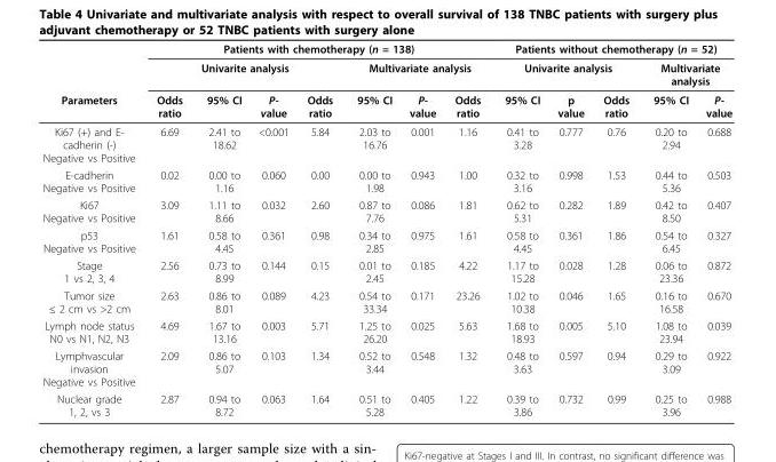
<table><thead><tr><td rowspan="3">Parameters</td><td colspan="7">Patients with chemotherapy (n = 138)</td><td colspan="5">Patients without chemotherapy (n = 52)</td></tr><tr><td colspan="4">Univarite analysis</td><td colspan="3">Multivariate analysis</td><td colspan="3">Univarite analysis</td><td colspan="2">Multivariate analysis</td></tr><tr><td>Odds ratio</td><td>95% CI</td><td>P- value</td><td>Odds ratio</td><td>95% CI</td><td>P- value</td><td>Odds ratio</td><td>95% CI</td><td>p value</td><td>Odds ratio</td><td>95% CI</td><td>P- value</td></tr></thead><tbody><tr><td>Ki67 (+) and E- cadherin (-) Negative vs Positive</td><td>6.69</td><td>2.41 to 18.62</td><td>&lt;0.001</td><td>5.84</td><td>2.03 to 16.76</td><td>0.001</td><td>1.16</td><td>0.41 to 3.28</td><td>0.777</td><td>0.76</td><td>0.20 to 2.94</td><td>0.688</td></tr><tr><td>E-cadherin Negative vs Positive</td><td>0.02</td><td>0.00 to 1.16</td><td>0.060</td><td>0.00</td><td>0.00 to 1.98</td><td>0.943</td><td>1.00</td><td>0.32 to 3.16</td><td>0.998</td><td>1.53</td><td>0.44 to 5.36</td><td>0.503</td></tr><tr><td>Ki67 Negative vs Positive</td><td>3.09</td><td>1.11 to 8.66</td><td>0.032</td><td>2.60</td><td>0.87 to 7.76</td><td>0.086</td><td>1.81</td><td>0.62 to 5.31</td><td>0.282</td><td>1.89</td><td>0.42 to 8.50</td><td>0.407</td></tr><tr><td>p53 Negative vs Positive</td><td>1.61</td><td>0.58 to 4.45</td><td>0.361</td><td>0.98</td><td>0.34 to 2.85</td><td>0.975</td><td>1.61</td><td>0.58 to 4.45</td><td>0.361</td><td>1.86</td><td>0.54 to 6.45</td><td>0.327</td></tr><tr><td>Stage 1 vs 2, 3, 4</td><td>2.56</td><td>0.73 to 8.99</td><td>0.144</td><td>0.15</td><td>0.01 to 2.45</td><td>0.185</td><td>4.22</td><td>1.17 to 15.28</td><td>0.028</td><td>1.28</td><td>0.06 to 23.36</td><td>0.872</td></tr><tr><td>Tumor size ≤ 2 cm vs &gt;2 cm</td><td>2.63</td><td>0.86 to 8.01</td><td>0.089</td><td>4.23</td><td>0.54 to 33.34</td><td>0.171</td><td>23.26</td><td>1.02 to 10.38</td><td>0.046</td><td>1.65</td><td>0.16 to 16.58</td><td>0.670</td></tr><tr><td>Lymph node status N0 vs N1, N2, N3</td><td>4.69</td><td>1.67 to 13.16</td><td>0.003</td><td>5.71</td><td>1.25 to 26.20</td><td>0.025</td><td>5.63</td><td>1.68 to 18.93</td><td>0.005</td><td>5.10</td><td>1.08 to 23.94</td><td>0.039</td></tr><tr><td>Lymphvascular invasion Negative vs Positive</td><td>2.09</td><td>0.86 to 5.07</td><td>0.103</td><td>1.34</td><td>0.52 to 3.44</td><td>0.548</td><td>1.32</td><td>0.48 to 3.63</td><td>0.597</td><td>0.94</td><td>0.29 to 3.09</td><td>0.922</td></tr><tr><td>Nuclear grade 1, 2, vs 3</td><td>2.87</td><td>0.94 to 8.72</td><td>0.063</td><td>1.64</td><td>0.51 to 5.28</td><td>0.405</td><td>1.22</td><td>0.39 to 3.86</td><td>0.732</td><td>0.99</td><td>0.25 to 3.96</td><td>0.988</td></tr></tbody></table>